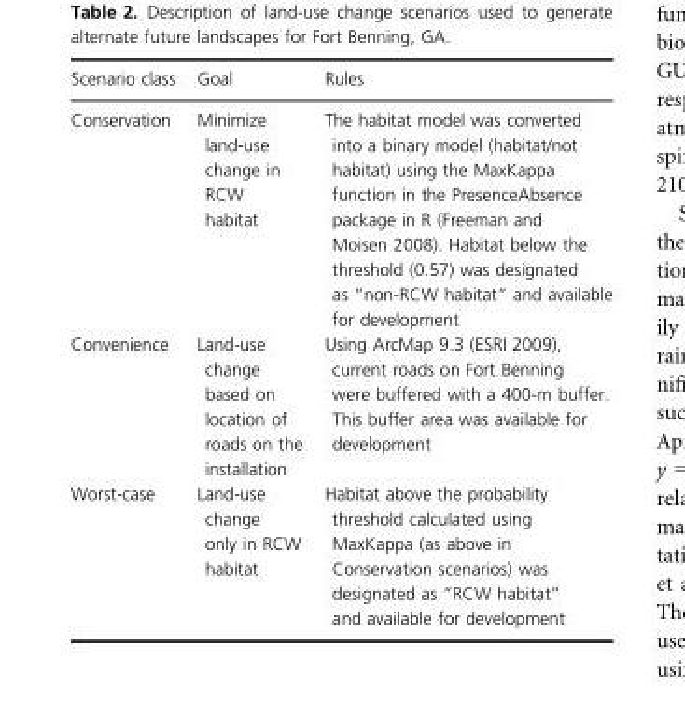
<table><thead><tr><td>Scenario class</td><td>Goal</td><td>Rules</td></tr></thead><tbody><tr><td>Conservation</td><td>Minimize land-use change in RCW habitat</td><td>The habitat model was converted into a binary model (habitat/not habitat) using the MaxKappa function in the PresenceAbsence package in R (Freeman and Moisen 2008). Habitat below the threshold (0.57) was designated as “non-RCW habitat” and available for development</td></tr><tr><td>Convenience</td><td>Land-use change based on location of roads on the installation</td><td>Using ArcMap 9.3 (ESRI 2009), current roads on Fort Benning were buffered with a 400-m buffer. This buffer area was available for development</td></tr><tr><td>Worst-case</td><td>Land-use change only in RCW habitat</td><td>Habitat above the probability threshold calculated using MaxKappa (as above in Conservation scenarios) was designated as “RCW habitat” and available for development</td></tr></tbody></table>